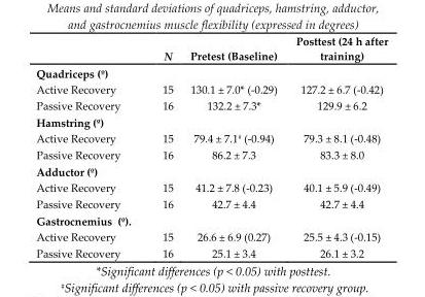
<table><thead><tr><td></td><td>N</td><td>Pretest (Baseline)</td><td>Posttest (24 h after training)</td></tr></thead><tbody><tr><td colspan="4">Quadriceps (<sup>º</sup>)</td></tr><tr><td>Active Recovery</td><td>15</td><td>130.1 ± 7.0* (-0.29)</td><td>127.2 ± 6.7 (-0.42)</td></tr><tr><td>Passive Recovery</td><td>16</td><td>132.2 ± 7.3*</td><td>129.9 ± 6.2</td></tr><tr><td colspan="4">Hamstring (<sup>º</sup>)</td></tr><tr><td>Active Recovery</td><td>15</td><td>79.4 ± 7.1<sup>#</sup> (-0.94)</td><td>79.3 ± 8.1 (-0.48)</td></tr><tr><td>Passive Recovery</td><td>16</td><td>86.2 ± 7.3</td><td>83.3 ± 8.0</td></tr><tr><td colspan="4">Adductor (<sup>º</sup>)</td></tr><tr><td>Active Recovery</td><td>15</td><td>41.2 ± 7.8 (-0.23)</td><td>40.1 ± 5.9 (-0.49)</td></tr><tr><td>Passive Recovery</td><td>16</td><td>42.7 ± 4.4</td><td>42.7 ± 4.4</td></tr><tr><td colspan="4">Gastrocnemius (<sup>º</sup>).</td></tr><tr><td>Active Recovery</td><td>15</td><td>26.6 ± 6.9 (0.27)</td><td>25.5 ± 4.3 (-0.15)</td></tr><tr><td>Passive Recovery</td><td>16</td><td>25.1 ± 3.4</td><td>26.1 ± 3.2</td></tr></tbody></table>